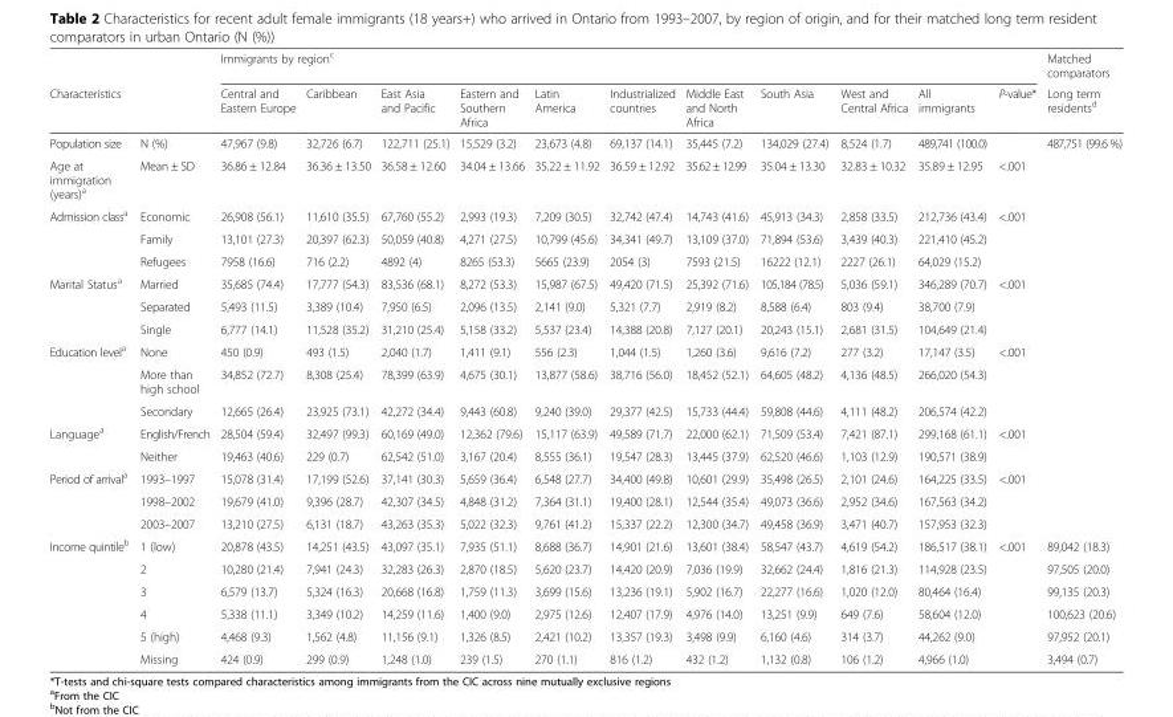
<table><thead><tr><td></td><td></td><td colspan="11">Immigrants by region<sup>c</sup></td><td rowspan="2">Matched comparators Long term residents<sup>d</sup></td></tr><tr><td colspan="2">Characteristics</td><td>Central and Eastern Europe</td><td>Caribbean</td><td>East Asia and Pacific</td><td>Eastern and Southern Africa</td><td>Latin America</td><td>Industrialized countries</td><td>Middle East and North Africa</td><td>South Asia</td><td>West and Central Africa</td><td>All immigrants</td><td>P-value*</td></tr></thead><tbody><tr><td>Population size</td><td>N (%)</td><td>47,967 (9.8)</td><td>32,726 (6.7)</td><td>122,711 (25.1)</td><td>15,529 (3.2)</td><td>23,673 (4.8)</td><td>69,137 (14.1)</td><td>35,445 (7.2)</td><td>134,029 (27.4)</td><td>8,524 (1.7)</td><td>489,741 (100.0)</td><td></td><td>487,751 (99.6 %)</td></tr><tr><td>Age at immigration (years)<sup>a</sup></td><td>Mean ± SD</td><td>36.86 ± 12.84</td><td>36.36 ± 13.50</td><td>36.58 ± 12.60</td><td>34.04 ± 13.66</td><td>35.22 ± 11.92</td><td>36.59 ± 12.92</td><td>35.62 ± 12.99</td><td>35.04 ± 13.30</td><td>32.83 ± 10.32</td><td>35.89 ± 12.95</td><td>&lt;.001</td><td></td></tr><tr><td rowspan="3">Admission class<sup>a</sup></td><td>Economic</td><td>26,908 (56.1)</td><td>11,610 (35.5)</td><td>67,760 (55.2)</td><td>2,993 (19.3)</td><td>7,209 (30.5)</td><td>32,742 (47.4)</td><td>14,743 (41.6)</td><td>45,913 (34.3)</td><td>2,858 (33.5)</td><td>212,736 (43.4)</td><td>&lt;.001</td><td></td></tr><tr><td>Family</td><td>13,101 (27.3)</td><td>20,397 (62.3)</td><td>50,059 (40.8)</td><td>4,271 (27.5)</td><td>10,799 (45.6)</td><td>34,341 (49.7)</td><td>13,109 (37.0)</td><td>71,894 (53.6)</td><td>3,439 (40.3)</td><td>221,410 (45.2)</td><td></td><td></td></tr><tr><td>Refugees</td><td>7958 (16.6)</td><td>716 (2.2)</td><td>4892 (4)</td><td>8265 (53.3)</td><td>5665 (23.9)</td><td>2054 (3)</td><td>7593 (21.5)</td><td>16222 (12.1)</td><td>2227 (26.1)</td><td>64,029 (15.2)</td><td></td><td></td></tr><tr><td rowspan="3">Marital Status<sup>a</sup></td><td>Married</td><td>35,685 (74.4)</td><td>17,777 (54.3)</td><td>83,536 (68.1)</td><td>8,272 (53.3)</td><td>15,987 (67.5)</td><td>49,420 (71.5)</td><td>25,392 (71.6)</td><td>105,184 (78.5)</td><td>5,036 (59.1)</td><td>346,289 (70.7)</td><td>&lt;.001</td><td></td></tr><tr><td>Separated</td><td>5,493 (11.5)</td><td>3,389 (10.4)</td><td>7,950 (6.5)</td><td>2,096 (13.5)</td><td>2,141 (9.0)</td><td>5,321 (7.7)</td><td>2,919 (8.2)</td><td>8,588 (6.4)</td><td>803 (9.4)</td><td>38,700 (7.9)</td><td></td><td></td></tr><tr><td>Single</td><td>6,777 (14.1)</td><td>11,528 (35.2)</td><td>31,210 (25.4)</td><td>5,158 (33.2)</td><td>5,537 (23.4)</td><td>14,388 (20.8)</td><td>7,127 (20.1)</td><td>20,243 (15.1)</td><td>2,681 (31.5)</td><td>104,649 (21.4)</td><td></td><td></td></tr><tr><td rowspan="3">Education level<sup>a</sup></td><td>None</td><td>450 (0.9)</td><td>493 (1.5)</td><td>2,040 (1.7)</td><td>1,411 (9.1)</td><td>556 (2.3)</td><td>1,044 (1.5)</td><td>1,260 (3.6)</td><td>9,616 (7.2)</td><td>277 (3.2)</td><td>17,147 (3.5)</td><td>&lt;.001</td><td></td></tr><tr><td>More than high school</td><td>34,852 (72.7)</td><td>8,308 (25.4)</td><td>78,399 (63.9)</td><td>4,675 (30.1)</td><td>13,877 (58.6)</td><td>38,716 (56.0)</td><td>18,452 (52.1)</td><td>64,605 (48.2)</td><td>4,136 (48.5)</td><td>266,020 (54.3)</td><td></td><td></td></tr><tr><td>Secondary</td><td>12,665 (26.4)</td><td>23,925 (73.1)</td><td>42,272 (34.4)</td><td>9,443 (60.8)</td><td>9,240 (39.0)</td><td>29,377 (42.5)</td><td>15,733 (44.4)</td><td>59,808 (44.6)</td><td>4,111 (48.2)</td><td>206,574 (42.2)</td><td></td><td></td></tr><tr><td rowspan="2">Language<sup>a</sup></td><td>English/French</td><td>28,504 (59.4)</td><td>32,497 (99.3)</td><td>60,169 (49.0)</td><td>12,362 (79.6)</td><td>15,117 (63.9)</td><td>49,589 (71.7)</td><td>22,000 (62.1)</td><td>71,509 (53.4)</td><td>7,421 (87.1)</td><td>299,168 (61.1)</td><td>&lt;.001</td><td></td></tr><tr><td>Neither</td><td>19,463 (40.6)</td><td>229 (0.7)</td><td>62,542 (51.0)</td><td>3,167 (20.4)</td><td>8,555 (36.1)</td><td>19,547 (28.3)</td><td>13,445 (37.9)</td><td>62,520 (46.6)</td><td>1,103 (12.9)</td><td>190,571 (38.9)</td><td></td><td></td></tr><tr><td rowspan="3">Period of arrival<sup>a</sup></td><td>1993–1997</td><td>15,078 (31.4)</td><td>17,199 (52.6)</td><td>37,141 (30.3)</td><td>5,659 (36.4)</td><td>6,548 (27.7)</td><td>34,400 (49.8)</td><td>10,601 (29.9)</td><td>35,498 (26.5)</td><td>2,101 (24.6)</td><td>164,225 (33.5)</td><td>&lt;.001</td><td></td></tr><tr><td>1998–2002</td><td>19,679 (41.0)</td><td>9,396 (28.7)</td><td>42,307 (34.5)</td><td>4,848 (31.2)</td><td>7,364 (31.1)</td><td>19,400 (28.1)</td><td>12,544 (35.4)</td><td>49,073 (36.6)</td><td>2,952 (34.6)</td><td>167,563 (34.2)</td><td></td><td></td></tr><tr><td>2003–2007</td><td>13,210 (27.5)</td><td>6,131 (18.7)</td><td>43,263 (35.3)</td><td>5,022 (32.3)</td><td>9,761 (41.2)</td><td>15,337 (22.2)</td><td>12,300 (34.7)</td><td>49,458 (36.9)</td><td>3,471 (40.7)</td><td>157,953 (32.3)</td><td></td><td></td></tr><tr><td rowspan="6">Income quintile<sup>b</sup></td><td>1 (low)</td><td>20,878 (43.5)</td><td>14,251 (43.5)</td><td>43,097 (35.1)</td><td>7,935 (51.1)</td><td>8,688 (36.7)</td><td>14,901 (21.6)</td><td>13,601 (38.4)</td><td>58,547 (43.7)</td><td>4,619 (54.2)</td><td>186,517 (38.1)</td><td>&lt;.001</td><td>89,042 (18.3)</td></tr><tr><td>2</td><td>10,280 (21.4)</td><td>7,941 (24.3)</td><td>32,283 (26.3)</td><td>2,870 (18.5)</td><td>5,620 (23.7)</td><td>14,420 (20.9)</td><td>7,036 (19.9)</td><td>32,662 (24.4)</td><td>1,816 (21.3)</td><td>114,928 (23.5)</td><td></td><td>97,505 (20.0)</td></tr><tr><td>3</td><td>6,579 (13.7)</td><td>5,324 (16.3)</td><td>20,668 (16.8)</td><td>1,759 (11.3)</td><td>3,699 (15.6)</td><td>13,236 (19.1)</td><td>5,902 (16.7)</td><td>22,277 (16.6)</td><td>1,020 (12.0)</td><td>80,464 (16.4)</td><td></td><td>99,135 (20.3)</td></tr><tr><td>4</td><td>5,338 (11.1)</td><td>3,349 (10.2)</td><td>14,259 (11.6)</td><td>1,400 (9.0)</td><td>2,975 (12.6)</td><td>12,407 (17.9)</td><td>4,976 (14.0)</td><td>13,251 (9.9)</td><td>649 (7.6)</td><td>58,604 (12.0)</td><td></td><td>100,623 (20.6)</td></tr><tr><td>5 (high)</td><td>4,468 (9.3)</td><td>1,562 (4.8)</td><td>11,156 (9.1)</td><td>1,326 (8.5)</td><td>2,421 (10.2)</td><td>13,357 (19.3)</td><td>3,498 (9.9)</td><td>6,160 (4.6)</td><td>314 (3.7)</td><td>44,262 (9.0)</td><td></td><td>97,952 (20.1)</td></tr><tr><td>Missing</td><td>424 (0.9)</td><td>299 (0.9)</td><td>1,248 (1.0)</td><td>239 (1.5)</td><td>270 (1.1)</td><td>816 (1.2)</td><td>432 (1.2)</td><td>1,132 (0.8)</td><td>106 (1.2)</td><td>4,966 (1.0)</td><td></td><td>3,494 (0.7)</td></tr></tbody></table>